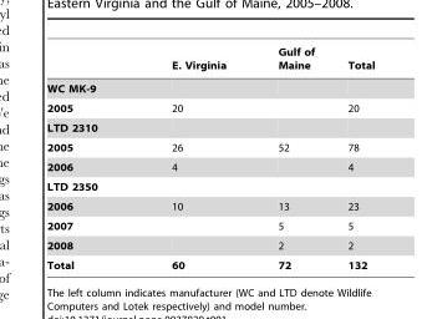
<table><thead><tr><td></td><td>E. Virginia</td><td>Gulf of Maine</td><td>Total</td></tr></thead><tbody><tr><td colspan="4">WC MK-9</td></tr><tr><td>2005</td><td>20</td><td></td><td>20</td></tr><tr><td colspan="4">LTD 2310</td></tr><tr><td>2005</td><td>26</td><td>52</td><td>78</td></tr><tr><td>2006</td><td>4</td><td></td><td>4</td></tr><tr><td colspan="4">LTD 2350</td></tr><tr><td>2006</td><td>10</td><td>13</td><td>23</td></tr><tr><td>2007</td><td></td><td>5</td><td>5</td></tr><tr><td>2008</td><td></td><td>2</td><td>2</td></tr><tr><td>Total</td><td>60</td><td>72</td><td>132</td></tr></tbody></table>